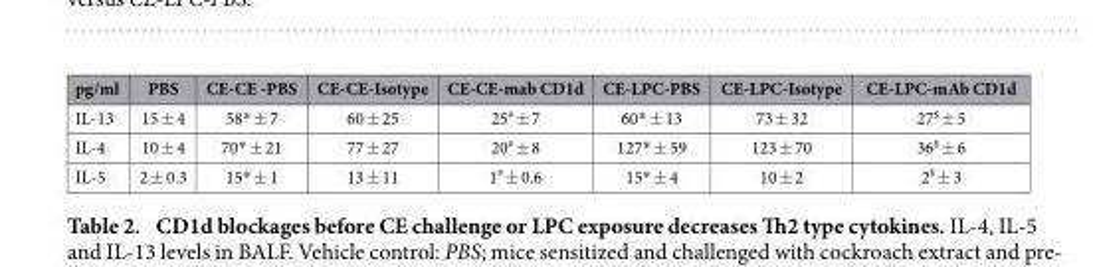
<table><thead><tr><td>pg/ml</td><td>PBS</td><td>CE-CE -PBS</td><td>CE-CE-Isotype</td><td>CE-CE-mab CD1d</td><td>CE-LPC-PBS</td><td>CE-LPC-Isotype</td><td>CE-LPC-mAb CD1d</td></tr></thead><tbody><tr><td>IL-13</td><td>15 ± 4</td><td>58* ± 7</td><td>60 ± 25</td><td>25# ± 7</td><td>60* ± 13</td><td>73 ± 32</td><td>27$ ± 5</td></tr><tr><td>IL-4</td><td>10 ± 4</td><td>70* ± 21</td><td>77 ± 27</td><td>20# ± 8</td><td>127* ± 59</td><td>123 ± 70</td><td>36$ ± 6</td></tr><tr><td>IL-5</td><td>2 ± 0.3</td><td>15* ± 1</td><td>13 ± 11</td><td>1# ± 0.6</td><td>15* ± 4</td><td>10 ± 2</td><td>2$ ± 3</td></tr></tbody></table>